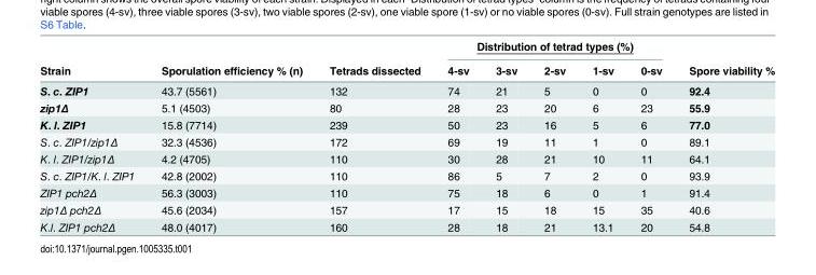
<table><thead><tr><td rowspan="2">Strain</td><td rowspan="2">Sporulation efficiency % (n)</td><td rowspan="2">Tetrads dissected</td><td colspan="5">Distribution of tetrad types (%)</td><td rowspan="2">Spore viability %</td></tr><tr><td>4-sv</td><td>3-sv</td><td>2-sv</td><td>1-sv</td><td>0-sv</td></tr></thead><tbody><tr><td>S. c. ZIP1</td><td>43.7 (5561)</td><td>132</td><td>74</td><td>21</td><td>5</td><td>0</td><td>0</td><td>92.4</td></tr><tr><td>zip1Δ</td><td>5.1 (4503)</td><td>80</td><td>28</td><td>23</td><td>20</td><td>6</td><td>23</td><td>55.9</td></tr><tr><td>K. l. ZIP1</td><td>15.8 (7714)</td><td>239</td><td>50</td><td>23</td><td>16</td><td>5</td><td>6</td><td>77.0</td></tr><tr><td>S. c. ZIP1/zip1Δ</td><td>32.3 (4536)</td><td>172</td><td>69</td><td>19</td><td>11</td><td>1</td><td>0</td><td>89.1</td></tr><tr><td>K. l. ZIP1/zip1Δ</td><td>4.2 (4705)</td><td>110</td><td>30</td><td>28</td><td>21</td><td>10</td><td>11</td><td>64.1</td></tr><tr><td>S. c. ZIP1/K. l. ZIP1</td><td>42.8 (2002)</td><td>110</td><td>86</td><td>5</td><td>7</td><td>2</td><td>0</td><td>93.9</td></tr><tr><td>ZIP1 pch2Δ</td><td>56.3 (3003)</td><td>110</td><td>75</td><td>18</td><td>6</td><td>0</td><td>1</td><td>91.4</td></tr><tr><td>zip1Δ pch2Δ</td><td>45.6 (2034)</td><td>157</td><td>17</td><td>15</td><td>18</td><td>15</td><td>35</td><td>40.6</td></tr><tr><td>K.l. ZIP1 pch2Δ</td><td>48.0 (4017)</td><td>160</td><td>28</td><td>18</td><td>21</td><td>13.1</td><td>20</td><td>54.8</td></tr></tbody></table>